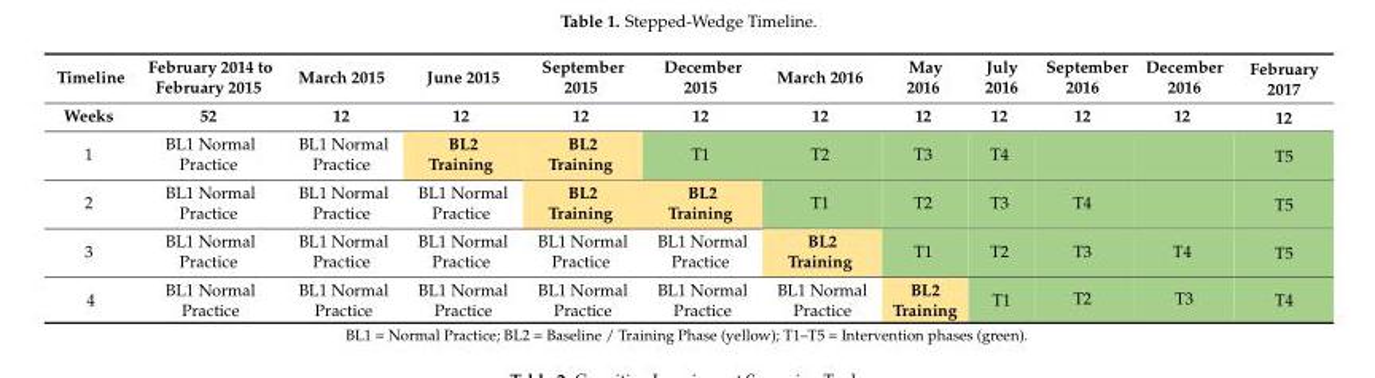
<table><thead><tr><td rowspan="2">Timeline Weeks</td><td rowspan="2">February 2014 to February 2015 52</td><td rowspan="2">March 2015 12</td><td rowspan="2">June 2015 12</td><td rowspan="2">September 2015 12</td><td rowspan="2">December 2015 12</td><td rowspan="2">March 2016 12</td><td rowspan="2">May 2016 12</td><td rowspan="2">July 2016 12</td><td rowspan="2">September 2016 12</td><td rowspan="2">December 2016 12</td><td rowspan="2">February 2017 12</td></tr><tr></tr></thead><tbody><tr><td>1</td><td>BL1 Normal Practice</td><td>BL1 Normal Practice</td><td>BL2 Training</td><td>BL2 Training</td><td>T1</td><td>T2</td><td>T3</td><td>T4</td><td></td><td></td><td>T5</td></tr><tr><td>2</td><td>BL1 Normal Practice</td><td>BL1 Normal Practice</td><td>BL1 Normal Practice</td><td>BL2 Training</td><td>BL2 Training</td><td>T1</td><td>T2</td><td>T3</td><td>T4</td><td></td><td>T5</td></tr><tr><td>3</td><td>BL1 Normal Practice</td><td>BL1 Normal Practice</td><td>BL1 Normal Practice</td><td>BL1 Normal Practice</td><td>BL1 Normal Practice</td><td>BL2 Training</td><td>T1</td><td>T2</td><td>T3</td><td>T4</td><td>T5</td></tr><tr><td>4</td><td>BL1 Normal Practice</td><td>BL1 Normal Practice</td><td>BL1 Normal Practice</td><td>BL1 Normal Practice</td><td>BL1 Normal Practice</td><td>BL1 Normal Practice</td><td>BL2 Training</td><td>T1</td><td>T2</td><td>T3</td><td>T4</td></tr></tbody></table>